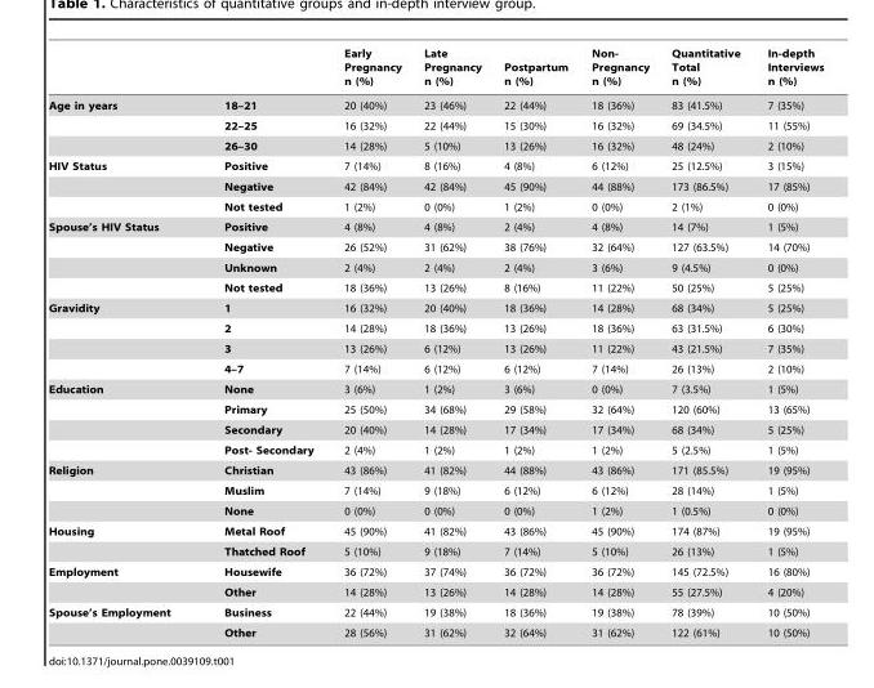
<table><thead><tr><td></td><td></td><td>Early Pregnancy n (%)</td><td>Late Pregnancy n (%)</td><td>Postpartum n (%)</td><td>Non- Pregnancy n (%)</td><td>Quantitative Total n (%)</td><td>In-depth Interviews n (%)</td></tr></thead><tbody><tr><td rowspan="3">Age in years</td><td>18–21</td><td>20 (40%)</td><td>23 (46%)</td><td>22 (44%)</td><td>18 (36%)</td><td>83 (41.5%)</td><td>7 (35%)</td></tr><tr><td>22–25</td><td>16 (32%)</td><td>22 (44%)</td><td>15 (30%)</td><td>16 (32%)</td><td>69 (34.5%)</td><td>11 (55%)</td></tr><tr><td>26–30</td><td>14 (28%)</td><td>5 (10%)</td><td>13 (26%)</td><td>16 (32%)</td><td>48 (24%)</td><td>2 (10%)</td></tr><tr><td rowspan="3">HIV Status</td><td>Positive</td><td>7 (14%)</td><td>8 (16%)</td><td>4 (8%)</td><td>6 (12%)</td><td>25 (12.5%)</td><td>3 (15%)</td></tr><tr><td>Negative</td><td>42 (84%)</td><td>42 (84%)</td><td>45 (90%)</td><td>44 (88%)</td><td>173 (86.5%)</td><td>17 (85%)</td></tr><tr><td>Not tested</td><td>1 (2%)</td><td>0 (0%)</td><td>1 (2%)</td><td>0 (0%)</td><td>2 (1%)</td><td>0 (0%)</td></tr><tr><td rowspan="4">Spouse’s HIV Status</td><td>Positive</td><td>4 (8%)</td><td>4 (8%)</td><td>2 (4%)</td><td>4 (8%)</td><td>14 (7%)</td><td>1 (5%)</td></tr><tr><td>Negative</td><td>26 (52%)</td><td>31 (62%)</td><td>38 (76%)</td><td>32 (64%)</td><td>127 (63.5%)</td><td>14 (70%)</td></tr><tr><td>Unknown</td><td>2 (4%)</td><td>2 (4%)</td><td>2 (4%)</td><td>3 (6%)</td><td>9 (4.5%)</td><td>0 (0%)</td></tr><tr><td>Not tested</td><td>18 (36%)</td><td>13 (26%)</td><td>8 (16%)</td><td>11 (22%)</td><td>50 (25%)</td><td>5 (25%)</td></tr><tr><td rowspan="4">Gravidity</td><td>1</td><td>16 (32%)</td><td>20 (40%)</td><td>18 (36%)</td><td>14 (28%)</td><td>68 (34%)</td><td>5 (25%)</td></tr><tr><td>2</td><td>14 (28%)</td><td>18 (36%)</td><td>13 (26%)</td><td>18 (36%)</td><td>63 (31.5%)</td><td>6 (30%)</td></tr><tr><td>3</td><td>13 (26%)</td><td>6 (12%)</td><td>13 (26%)</td><td>11 (22%)</td><td>43 (21.5%)</td><td>7 (35%)</td></tr><tr><td>4–7</td><td>7 (14%)</td><td>6 (12%)</td><td>6 (12%)</td><td>7 (14%)</td><td>26 (13%)</td><td>2 (10%)</td></tr><tr><td rowspan="4">Education</td><td>None</td><td>3 (6%)</td><td>1 (2%)</td><td>3 (6%)</td><td>0 (0%)</td><td>7 (3.5%)</td><td>1 (5%)</td></tr><tr><td>Primary</td><td>25 (50%)</td><td>34 (68%)</td><td>29 (58%)</td><td>32 (64%)</td><td>120 (60%)</td><td>13 (65%)</td></tr><tr><td>Secondary</td><td>20 (40%)</td><td>14 (28%)</td><td>17 (34%)</td><td>17 (34%)</td><td>68 (34%)</td><td>5 (25%)</td></tr><tr><td>Post- Secondary</td><td>2 (4%)</td><td>1 (2%)</td><td>1 (2%)</td><td>1 (2%)</td><td>5 (2.5%)</td><td>1 (5%)</td></tr><tr><td rowspan="3">Religion</td><td>Christian</td><td>43 (86%)</td><td>41 (82%)</td><td>44 (88%)</td><td>43 (86%)</td><td>171 (85.5%)</td><td>19 (95%)</td></tr><tr><td>Muslim</td><td>7 (14%)</td><td>9 (18%)</td><td>6 (12%)</td><td>6 (12%)</td><td>28 (14%)</td><td>1 (5%)</td></tr><tr><td>None</td><td>0 (0%)</td><td>0 (0%)</td><td>0 (0%)</td><td>1 (2%)</td><td>1 (0.5%)</td><td>0 (0%)</td></tr><tr><td rowspan="2">Housing</td><td>Metal Roof</td><td>45 (90%)</td><td>41 (82%)</td><td>43 (86%)</td><td>45 (90%)</td><td>174 (87%)</td><td>19 (95%)</td></tr><tr><td>Thatched Roof</td><td>5 (10%)</td><td>9 (18%)</td><td>7 (14%)</td><td>5 (10%)</td><td>26 (13%)</td><td>1 (5%)</td></tr><tr><td rowspan="2">Employment</td><td>Housewife</td><td>36 (72%)</td><td>37 (74%)</td><td>36 (72%)</td><td>36 (72%)</td><td>145 (72.5%)</td><td>16 (80%)</td></tr><tr><td>Other</td><td>14 (28%)</td><td>13 (26%)</td><td>14 (28%)</td><td>14 (28%)</td><td>55 (27.5%)</td><td>4 (20%)</td></tr><tr><td rowspan="2">Spouse’s Employment</td><td>Business</td><td>22 (44%)</td><td>19 (38%)</td><td>18 (36%)</td><td>19 (38%)</td><td>78 (39%)</td><td>10 (50%)</td></tr><tr><td>Other</td><td>28 (56%)</td><td>31 (62%)</td><td>32 (64%)</td><td>31 (62%)</td><td>122 (61%)</td><td>10 (50%)</td></tr></tbody></table>